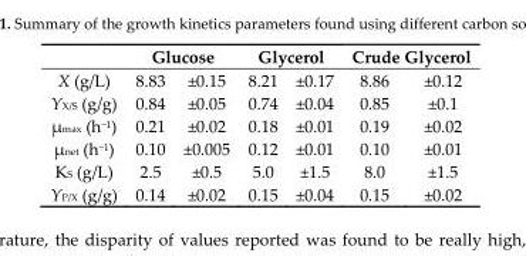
<table><thead><tr><td rowspan="2">X (g/L)</td><td colspan="2">Glucose</td><td colspan="2">Glycerol</td><td colspan="2">Crude Glycerol</td></tr><tr><td>8.83</td><td>±0.15</td><td>8.21</td><td>±0.17</td><td>8.86</td><td>±0.12</td></tr></thead><tbody><tr><td>Y<sub>X/S</sub> (g/g)</td><td>0.84</td><td>±0.05</td><td>0.74</td><td>±0.04</td><td>0.85</td><td>±0.1</td></tr><tr><td>μ<sub>max</sub> (h<sup>−1</sup>)</td><td>0.21</td><td>±0.02</td><td>0.18</td><td>±0.01</td><td>0.19</td><td>±0.02</td></tr><tr><td>μ<sub>net</sub> (h<sup>−1</sup>)</td><td>0.10</td><td>±0.005</td><td>0.12</td><td>±0.01</td><td>0.10</td><td>±0.01</td></tr><tr><td>K<sub>S</sub> (g/L)</td><td>2.5</td><td>±0.5</td><td>5.0</td><td>±1.5</td><td>8.0</td><td>±1.5</td></tr><tr><td>Y<sub>P/X</sub> (g/g)</td><td>0.14</td><td>±0.02</td><td>0.15</td><td>±0.04</td><td>0.15</td><td>±0.02</td></tr></tbody></table>